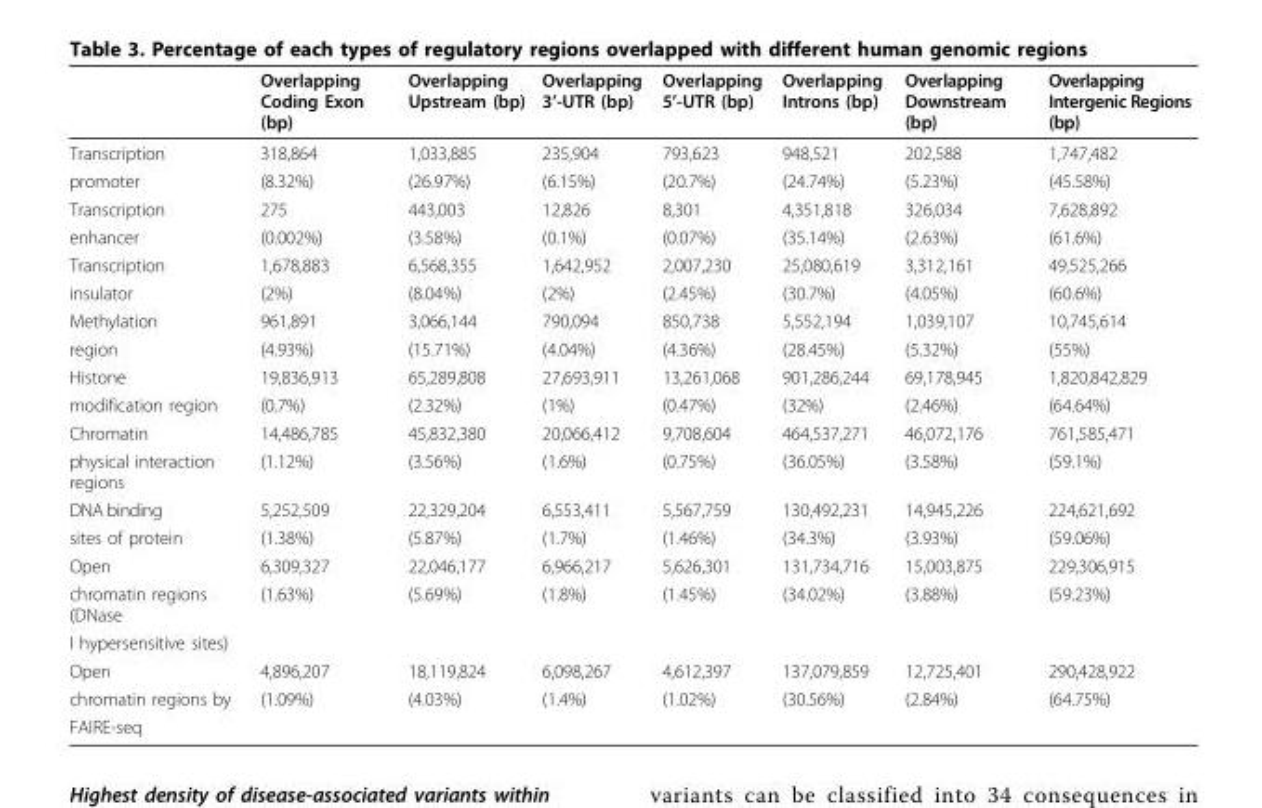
<table><thead><tr><td></td><td>Overlapping Coding Exon (bp)</td><td>Overlapping Upstream (bp)</td><td>Overlapping 3’-UTR (bp)</td><td>Overlapping 5’-UTR (bp)</td><td>Overlapping Introns (bp)</td><td>Overlapping Downstream (bp)</td><td>Overlapping Intergenic Regions (bp)</td></tr></thead><tbody><tr><td>Transcription</td><td>318,864</td><td>1,033,885</td><td>235,904</td><td>793,623</td><td>948,521</td><td>202,588</td><td>1,747,482</td></tr><tr><td>promoter</td><td>(8.32%)</td><td>(26.97%)</td><td>(6.15%)</td><td>(20.7%)</td><td>(24.74%)</td><td>(5.23%)</td><td>(45.58%)</td></tr><tr><td>Transcription</td><td>275</td><td>443,003</td><td>12,826</td><td>8,301</td><td>4,351,818</td><td>326,034</td><td>7,628,892</td></tr><tr><td>enhancer</td><td>(0.002%)</td><td>(3.58%)</td><td>(0.1%)</td><td>(0.07%)</td><td>(35.14%)</td><td>(2.63%)</td><td>(61.6%)</td></tr><tr><td>Transcription</td><td>1,678,883</td><td>6,568,355</td><td>1,642,952</td><td>2,007,230</td><td>25,080,619</td><td>3,312,161</td><td>49,525,266</td></tr><tr><td>insulator</td><td>(2%)</td><td>(8.04%)</td><td>(2%)</td><td>(2.45%)</td><td>(30.7%)</td><td>(4.05%)</td><td>(60.6%)</td></tr><tr><td>Methylation</td><td>961,891</td><td>3,066,144</td><td>790,094</td><td>850,738</td><td>5,552,194</td><td>1,039,107</td><td>10,745,614</td></tr><tr><td>region</td><td>(4.93%)</td><td>(15.71%)</td><td>(4.04%)</td><td>(4.36%)</td><td>(28.45%)</td><td>(5.32%)</td><td>(55%)</td></tr><tr><td>Histone</td><td>19,836,913</td><td>65,289,808</td><td>27,693,911</td><td>13,261,068</td><td>901,286,244</td><td>69,178,945</td><td>1,820,842,829</td></tr><tr><td>modification region</td><td>(0.7%)</td><td>(2.32%)</td><td>(1%)</td><td>(0.47%)</td><td>(32%)</td><td>(2.46%)</td><td>(64.64%)</td></tr><tr><td>Chromatin</td><td>14,486,785</td><td>45,832,380</td><td>20,066,412</td><td>9,708,604</td><td>464,537,271</td><td>46,072,176</td><td>761,585,471</td></tr><tr><td>physical interaction regions</td><td>(1.12%)</td><td>(3.56%)</td><td>(1.6%)</td><td>(0.75%)</td><td>(36.05%)</td><td>(3.58%)</td><td>(59.1%)</td></tr><tr><td>DNA binding</td><td>5,252,509</td><td>22,329,204</td><td>6,553,411</td><td>5,567,759</td><td>130,492,231</td><td>14,945,226</td><td>224,621,692</td></tr><tr><td>sites of protein</td><td>(1.38%)</td><td>(5.87%)</td><td>(1.7%)</td><td>(1.46%)</td><td>(34.3%)</td><td>(3.93%)</td><td>(59.06%)</td></tr><tr><td>Open</td><td>6,309,327</td><td>22,046,177</td><td>6,966,217</td><td>5,626,301</td><td>131,734,716</td><td>15,003,875</td><td>229,306,915</td></tr><tr><td>chromatin regions (DNase</td><td>(1.63%)</td><td>(5.69%)</td><td>(1.8%)</td><td>(1.45%)</td><td>(34.02%)</td><td>(3.88%)</td><td>(59.23%)</td></tr><tr><td colspan="8">I hypersensitive sites)</td></tr><tr><td>Open</td><td>4,896,207</td><td>18,119,824</td><td>6,098,267</td><td>4,612,397</td><td>137,079,859</td><td>12,725,401</td><td>290,428,922</td></tr><tr><td>chromatin regions by</td><td>(1.09%)</td><td>(4.03%)</td><td>(1.4%)</td><td>(1.02%)</td><td>(30.56%)</td><td>(2.84%)</td><td>(64.75%)</td></tr><tr><td>FAIRE-seq</td><td></td><td></td><td></td><td></td><td></td><td></td><td></td></tr></tbody></table>